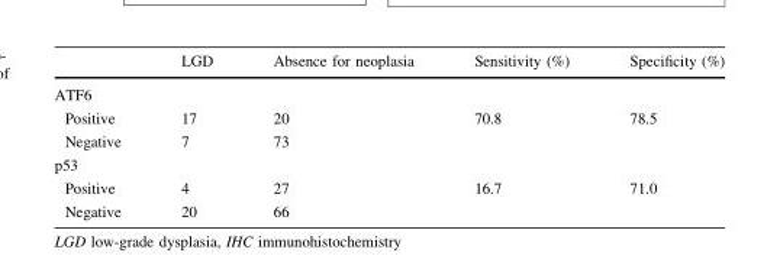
<table><thead><tr><td></td><td>LGD</td><td>Absence for neoplasia</td><td>Sensitivity (%)</td><td>Specificity (%)</td></tr></thead><tbody><tr><td colspan="5">ATF6</td></tr><tr><td>Positive</td><td>17</td><td>20</td><td rowspan="2">70.8</td><td rowspan="2">78.5</td></tr><tr><td>Negative</td><td>7</td><td>73</td></tr><tr><td colspan="5">p53</td></tr><tr><td>Positive</td><td>4</td><td>27</td><td rowspan="2">16.7</td><td rowspan="2">71.0</td></tr><tr><td>Negative</td><td>20</td><td>66</td></tr></tbody></table>